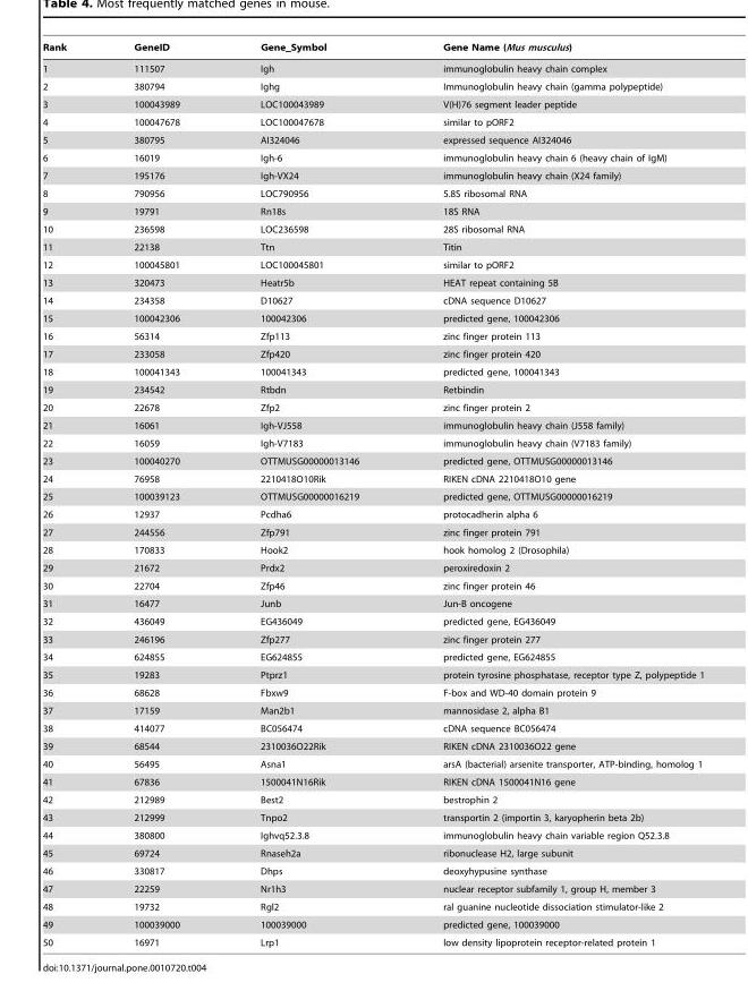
<table><thead><tr><td>Rank</td><td>GeneID</td><td>Gene__Symbol</td><td>Gene Name (Mus musculus)</td></tr></thead><tbody><tr><td>1</td><td>111507</td><td>Igh</td><td>immunoglobulin heavy chain complex</td></tr><tr><td>2</td><td>380794</td><td>Ighg</td><td>Immunoglobulin heavy chain (gamma polypeptide)</td></tr><tr><td>3</td><td>100043989</td><td>LOC100043989</td><td>V(H)76 segment leader peptide</td></tr><tr><td>4</td><td>100047678</td><td>LOC100047678</td><td>similar to pORF2</td></tr><tr><td>5</td><td>380795</td><td>AI324046</td><td>expressed sequence AI324046</td></tr><tr><td>6</td><td>16019</td><td>Igh-6</td><td>immunoglobulin heavy chain 6 (heavy chain of IgM)</td></tr><tr><td>7</td><td>195176</td><td>Igh-VX24</td><td>immunoglobulin heavy chain (X24 family)</td></tr><tr><td>8</td><td>790956</td><td>LOC790956</td><td>5.8S ribosomal RNA</td></tr><tr><td>9</td><td>19791</td><td>Rn18s</td><td>18S RNA</td></tr><tr><td>10</td><td>236598</td><td>LOC236598</td><td>28S ribosomal RNA</td></tr><tr><td>11</td><td>22138</td><td>Ttn</td><td>Titin</td></tr><tr><td>12</td><td>100045801</td><td>LOC100045801</td><td>similar to pORF2</td></tr><tr><td>13</td><td>320473</td><td>Heatr5b</td><td>HEAT repeat containing 5B</td></tr><tr><td>14</td><td>234358</td><td>D10627</td><td>cDNA sequence D10627</td></tr><tr><td>15</td><td>100042306</td><td>100042306</td><td>predicted gene, 100042306</td></tr><tr><td>16</td><td>56314</td><td>Zfp113</td><td>zinc finger protein 113</td></tr><tr><td>17</td><td>233058</td><td>Zfp420</td><td>zinc finger protein 420</td></tr><tr><td>18</td><td>100041343</td><td>100041343</td><td>predicted gene, 100041343</td></tr><tr><td>19</td><td>234542</td><td>Rtbdn</td><td>Retbindin</td></tr><tr><td>20</td><td>22678</td><td>Zfp2</td><td>zinc finger protein 2</td></tr><tr><td>21</td><td>16061</td><td>Igh-VJ558</td><td>immunoglobulin heavy chain (J558 family)</td></tr><tr><td>22</td><td>16059</td><td>Igh-V7183</td><td>immunoglobulin heavy chain (V7183 family)</td></tr><tr><td>23</td><td>100040270</td><td>OTTMUSG00000013146</td><td>predicted gene, OTTMUSG00000013146</td></tr><tr><td>24</td><td>76958</td><td>2210418O10Rik</td><td>RIKEN cDNA 2210418O10 gene</td></tr><tr><td>25</td><td>100039123</td><td>OTTMUSG00000016219</td><td>predicted gene, OTTMUSG00000016219</td></tr><tr><td>26</td><td>12937</td><td>Pcdha6</td><td>protocadherin alpha 6</td></tr><tr><td>27</td><td>244556</td><td>Zfp791</td><td>zinc finger protein 791</td></tr><tr><td>28</td><td>170833</td><td>Hook2</td><td>hook homolog 2 (Drosophila)</td></tr><tr><td>29</td><td>21672</td><td>Prdx2</td><td>peroxiredoxin 2</td></tr><tr><td>30</td><td>22704</td><td>Zfp46</td><td>zinc finger protein 46</td></tr><tr><td>31</td><td>16477</td><td>Junb</td><td>Jun-B oncogene</td></tr><tr><td>32</td><td>436049</td><td>EG436049</td><td>predicted gene, EG436049</td></tr><tr><td>33</td><td>246196</td><td>Zfp277</td><td>zinc finger protein 277</td></tr><tr><td>34</td><td>624855</td><td>EG624855</td><td>predicted gene, EG624855</td></tr><tr><td>35</td><td>19283</td><td>Ptprz1</td><td>protein tyrosine phosphatase, receptor type Z, polypeptide 1</td></tr><tr><td>36</td><td>68628</td><td>Fbxw9</td><td>F-box and WD-40 domain protein 9</td></tr><tr><td>37</td><td>17159</td><td>Man2b1</td><td>mannosidase 2, alpha B1</td></tr><tr><td>38</td><td>414077</td><td>BC056474</td><td>cDNA sequence BC056474</td></tr><tr><td>39</td><td>68544</td><td>2310036O22Rik</td><td>RIKEN cDNA 2310036O22 gene</td></tr><tr><td>40</td><td>56495</td><td>Asna1</td><td>arsA (bacterial) arsenite transporter, ATP-binding, homolog 1</td></tr><tr><td>41</td><td>67836</td><td>1500041N16Rik</td><td>RIKEN cDNA 1500041N16 gene</td></tr><tr><td>42</td><td>212989</td><td>Best2</td><td>bestrophin 2</td></tr><tr><td>43</td><td>212999</td><td>Tnpo2</td><td>transportin 2 (importin 3, karyopherin beta 2b)</td></tr><tr><td>44</td><td>380800</td><td>Ighvq52.3.8</td><td>immunoglobulin heavy chain variable region Q52.3.8</td></tr><tr><td>45</td><td>69724</td><td>Rnaseh2a</td><td>ribonuclease H2, large subunit</td></tr><tr><td>46</td><td>330817</td><td>Dhps</td><td>deoxyhypusine synthase</td></tr><tr><td>47</td><td>22259</td><td>Nr1h3</td><td>nuclear receptor subfamily 1, group H, member 3</td></tr><tr><td>48</td><td>19732</td><td>Rgl2</td><td>ral guanine nucleotide dissociation stimulator-like 2</td></tr><tr><td>49</td><td>100039000</td><td>100039000</td><td>predicted gene, 100039000</td></tr><tr><td>50</td><td>16971</td><td>Lrp1</td><td>low density lipoprotein receptor-related protein 1</td></tr></tbody></table>